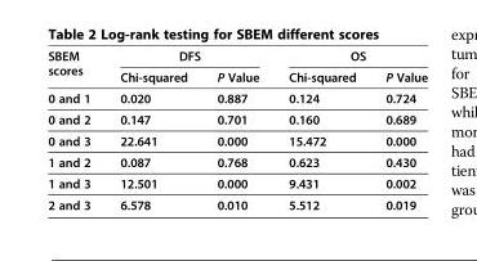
<table><thead><tr><td rowspan="2">SBEM scores</td><td colspan="2">DFS</td><td colspan="2">OS</td></tr><tr><td>Chi-squared</td><td>P Value</td><td>Chi-squared</td><td>P Value</td></tr></thead><tbody><tr><td>0 and 1</td><td>0.020</td><td>0.887</td><td>0.124</td><td>0.724</td></tr><tr><td>0 and 2</td><td>0.147</td><td>0.701</td><td>0.160</td><td>0.689</td></tr><tr><td>0 and 3</td><td>22.641</td><td>0.000</td><td>15.472</td><td>0.000</td></tr><tr><td>1 and 2</td><td>0.087</td><td>0.768</td><td>0.623</td><td>0.430</td></tr><tr><td>1 and 3</td><td>12.501</td><td>0.000</td><td>9.431</td><td>0.002</td></tr><tr><td>2 and 3</td><td>6.578</td><td>0.010</td><td>5.512</td><td>0.019</td></tr></tbody></table>